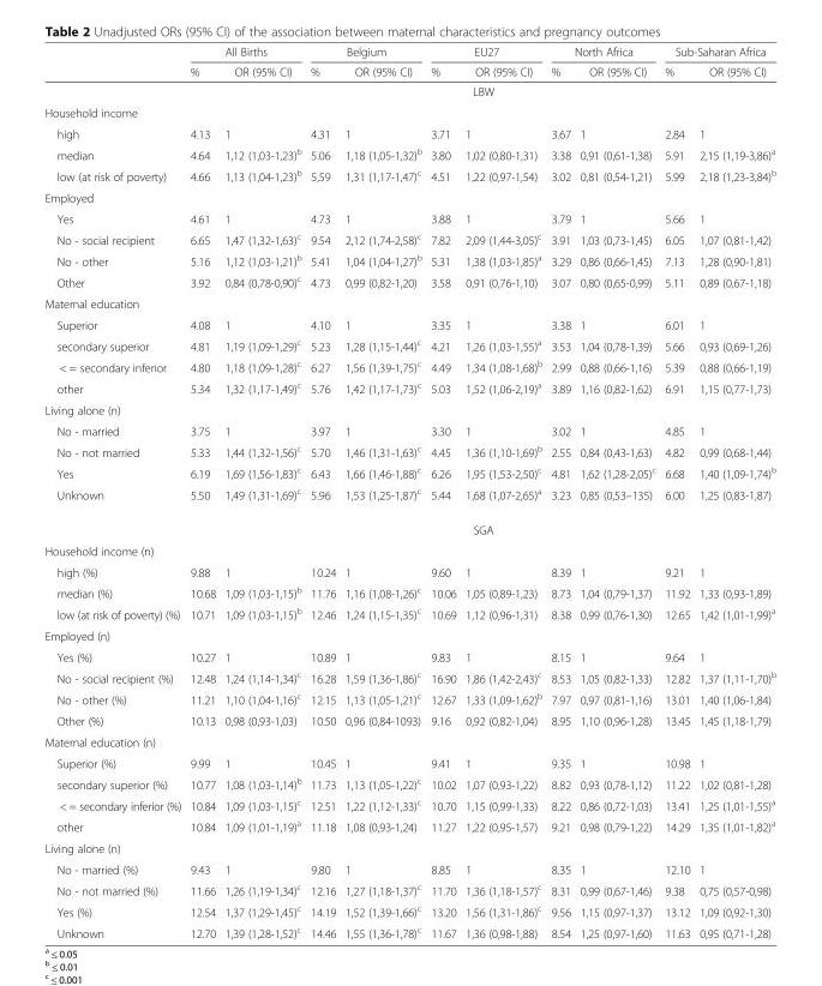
<table><thead><tr><td rowspan="2"></td><td colspan="2">All Births</td><td colspan="2">Belgium</td><td colspan="2">EU27</td><td colspan="2">North Africa</td><td colspan="2">Sub-Saharan Africa</td></tr><tr><td>%</td><td>OR (95% CI)</td><td>%</td><td>OR (95% CI)</td><td>%</td><td>OR (95% CI)</td><td>%</td><td>OR (95% CI)</td><td>%</td><td>OR (95% CI)</td></tr></thead><tbody><tr><td></td><td colspan="10">LBW</td></tr><tr><td colspan="11">Household income</td></tr><tr><td>high</td><td>4.13</td><td>1</td><td>4.31</td><td>1</td><td>3.71</td><td>1</td><td>3.67</td><td>1</td><td>2.84</td><td>1</td></tr><tr><td>median</td><td>4.64</td><td>1,12 (1,03-1,23)<sup>b</sup></td><td>5.06</td><td>1,18 (1,05-1,32)<sup>b</sup></td><td>3.80</td><td>1,02 (0,80-1,31)</td><td>3.38</td><td>0,91 (0,61-1,38)</td><td>5.91</td><td>2,15 (1,19-3,86)<sup>a</sup></td></tr><tr><td>low (at risk of poverty)</td><td>4.66</td><td>1,13 (1,04-1,23)<sup>b</sup></td><td>5,59</td><td>1,31 (1,17-1,47)<sup>c</sup></td><td>4.51</td><td>1,22 (0,97-1,54)</td><td>3.02</td><td>0,81 (0,54-1,21)</td><td>5.99</td><td>2,18 (1,23-3,84)<sup>b</sup></td></tr><tr><td colspan="11">Employed</td></tr><tr><td>Yes</td><td>4.61</td><td>1</td><td>4.73</td><td>1</td><td>3.88</td><td>1</td><td>3.79</td><td>1</td><td>5.66</td><td>1</td></tr><tr><td>No - social recipient</td><td>6.65</td><td>1,47 (1,32-1,63)<sup>c</sup></td><td>9.54</td><td>2,12 (1,74-2,58)<sup>c</sup></td><td>7.82</td><td>2,09 (1,44-3,05)<sup>c</sup></td><td>3.91</td><td>1,03 (0,73-1,45)</td><td>6.05</td><td>1,07 (0,81-1,42)</td></tr><tr><td>No - other</td><td>5.16</td><td>1,12 (1,03-1,21)<sup>b</sup></td><td>5.41</td><td>1,04 (1,04-1,27)<sup>b</sup></td><td>5.31</td><td>1,38 (1,03-1,85)<sup>a</sup></td><td>3.29</td><td>0,86 (0,66-1,45)</td><td>7.13</td><td>1,28 (0,90-1,81)</td></tr><tr><td>Other</td><td>3.92</td><td>0,84 (0,78-0,90)<sup>c</sup></td><td>4.73</td><td>0,99 (0,82-1,20)</td><td>3.58</td><td>0,91 (0,76-1,10)</td><td>3.07</td><td>0,80 (0,65-0,99)</td><td>5.11</td><td>0,89 (0,67-1,18)</td></tr><tr><td colspan="11">Maternal education</td></tr><tr><td>Superior</td><td>4.08</td><td>1</td><td>4.10</td><td>1</td><td>3.35</td><td>1</td><td>3.38</td><td>1</td><td>6.01</td><td>1</td></tr><tr><td>secondary superior</td><td>4.81</td><td>1,19 (1,09-1,29)<sup>c</sup></td><td>5.23</td><td>1,28 (1,15-1,44)<sup>c</sup></td><td>4.21</td><td>1,26 (1,03-1,55)<sup>a</sup></td><td>3.53</td><td>1,04 (0,78-1,39)</td><td>5.66</td><td>0,93 (0,69-1,26)</td></tr><tr><td>&lt; = secondary inferior</td><td>4.80</td><td>1,18 (1,09-1,28)<sup>c</sup></td><td>6.27</td><td>1,56 (1,39-1,75)<sup>c</sup></td><td>4.49</td><td>1,34 (1,08-1,68)<sup>b</sup></td><td>2.99</td><td>0,88 (0,66-1,16)</td><td>5.39</td><td>0,88 (0,66-1,19)</td></tr><tr><td>other</td><td>5.34</td><td>1,32 (1,17-1,49)<sup>c</sup></td><td>5.76</td><td>1,42 (1,17-1,73)<sup>c</sup></td><td>5.03</td><td>1,52 (1,06-2,19)<sup>a</sup></td><td>3.89</td><td>1,16 (0,82-1,62)</td><td>6.91</td><td>1,15 (0,77-1,73)</td></tr><tr><td colspan="11">Living alone (n)</td></tr><tr><td>No - married</td><td>3.75</td><td>1</td><td>3.97</td><td>1</td><td>3.30</td><td>1</td><td>3.02</td><td>1</td><td>4.85</td><td>1</td></tr><tr><td>No - not married</td><td>5.33</td><td>1,44 (1,32-1,56)<sup>c</sup></td><td>5.70</td><td>1,46 (1,31-1,63)<sup>c</sup></td><td>4.45</td><td>1,36 (1,10-1,69)<sup>b</sup></td><td>2.55</td><td>0,84 (0,43-1,63)</td><td>4.82</td><td>0,99 (0,68-1,44)</td></tr><tr><td>Yes</td><td>6.19</td><td>1,69 (1,56-1,83)<sup>c</sup></td><td>6.43</td><td>1,66 (1,46-1,88)<sup>c</sup></td><td>6.26</td><td>1,95 (1,53-2,50)<sup>c</sup></td><td>4.81</td><td>1,62 (1,28-2,05)<sup>c</sup></td><td>6.68</td><td>1,40 (1,09-1,74)<sup>b</sup></td></tr><tr><td rowspan="2">Unknown</td><td>5.50</td><td>1,49 (1,31-1,69)<sup>c</sup></td><td>5.96</td><td>1,53 (1,25-1,87)<sup>c</sup></td><td>5.44</td><td>1,68 (1,07-2,65)<sup>a</sup></td><td>3.23</td><td>0,85 (0,53–135)</td><td>6.00</td><td>1,25 (0,83-1,87)</td></tr><tr><td colspan="10">SGA</td></tr><tr><td colspan="11">Household income (n)</td></tr><tr><td>high (%)</td><td>9.88</td><td>1</td><td>10.24</td><td>1</td><td>9.60</td><td>1</td><td>8.39</td><td>1</td><td>9.21</td><td>1</td></tr><tr><td>median (%)</td><td>10.68</td><td>1,09 (1,03-1,15)<sup>b</sup></td><td>11.76</td><td>1,16 (1,08-1,26)<sup>c</sup></td><td>10.06</td><td>1,05 (0,89-1,23)</td><td>8.73</td><td>1,04 (0,79-1,37)</td><td>11.92</td><td>1,33 (0,93-1,89)</td></tr><tr><td>low (at risk of poverty) (%)</td><td>10.71</td><td>1,09 (1,03-1,15)<sup>b</sup></td><td>12.46</td><td>1,24 (1,15-1,35)<sup>c</sup></td><td>10.69</td><td>1,12 (0,96-1,31)</td><td>8.38</td><td>0,99 (0,76-1,30)</td><td>12.65</td><td>1,42 (1,01-1,99)<sup>a</sup></td></tr><tr><td colspan="11">Employed (n)</td></tr><tr><td>Yes (%)</td><td>10.27</td><td>1</td><td>10.89</td><td>1</td><td>9.83</td><td>1</td><td>8.15</td><td>1</td><td>9.64</td><td>1</td></tr><tr><td>No - social recipient (%)</td><td>12.48</td><td>1,24 (1,14-1,34)<sup>c</sup></td><td>16.28</td><td>1,59 (1,36-1,86)<sup>c</sup></td><td>16.90</td><td>1,86 (1,42-2,43)<sup>c</sup></td><td>8.53</td><td>1,05 (0,82-1,33)</td><td>12.82</td><td>1,37 (1,11-1,70)<sup>b</sup></td></tr><tr><td>No - other (%)</td><td>11.21</td><td>1,10 (1,04-1,16)<sup>c</sup></td><td>12.15</td><td>1,13 (1,05-1,21)<sup>c</sup></td><td>12.67</td><td>1,33 (1,09-1,62)<sup>b</sup></td><td>7.97</td><td>0,97 (0,81-1,16)</td><td>13.01</td><td>1,40 (1,06-1,84)</td></tr><tr><td>Other (%)</td><td>10.13</td><td>0,98 (0,93-1,03)</td><td>10.50</td><td>0,96 (0,84-1093)</td><td>9.16</td><td>0,92 (0,82-1,04)</td><td>8.95</td><td>1,10 (0,96-1,28)</td><td>13.45</td><td>1,45 (1,18-1,79)</td></tr><tr><td colspan="11">Maternal education (n)</td></tr><tr><td>Superior (%)</td><td>9.99</td><td>1</td><td>10.45</td><td>1</td><td>9.41</td><td>1</td><td>9.35</td><td>1</td><td>10.98</td><td>1</td></tr><tr><td>secondary superior (%)</td><td>10.77</td><td>1,08 (1,03-1,14)<sup>b</sup></td><td>11.73</td><td>1,13 (1,05-1,22)<sup>c</sup></td><td>10.02</td><td>1,07 (0,93-1,22)</td><td>8.82</td><td>0,93 (0,78-1,12)</td><td>11.22</td><td>1,02 (0,81-1,28)</td></tr><tr><td>&lt; = secondary inferior (%)</td><td>10.84</td><td>1,09 (1,03-1,15)<sup>c</sup></td><td>12.51</td><td>1,22 (1,12-1,33)<sup>c</sup></td><td>10.70</td><td>1,15 (0,99-1,33)</td><td>8.22</td><td>0,86 (0,72-1,03)</td><td>13.41</td><td>1,25 (1,01-1,55)<sup>a</sup></td></tr><tr><td>other</td><td>10.84</td><td>1,09 (1,01-1,19)<sup>a</sup></td><td>11.18</td><td>1,08 (0,93-1,24)</td><td>11.27</td><td>1,22 (0,95-1,57)</td><td>9.21</td><td>0,98 (0,79-1,22)</td><td>14.29</td><td>1,35 (1,01-1,82)<sup>a</sup></td></tr><tr><td colspan="11">Living alone (n)</td></tr><tr><td>No - married (%)</td><td>9.43</td><td>1</td><td>9.80</td><td>1</td><td>8.85</td><td>1</td><td>8.35</td><td>1</td><td>12.10</td><td>1</td></tr><tr><td>No - not married (%)</td><td>11.66</td><td>1,26 (1,19-1,34)<sup>c</sup></td><td>12.16</td><td>1,27 (1,18-1,37)<sup>c</sup></td><td>11.70</td><td>1,36 (1,18-1,57)<sup>c</sup></td><td>8.31</td><td>0,99 (0,67-1,46)</td><td>9.38</td><td>0,75 (0,57-0,98)</td></tr><tr><td>Yes (%)</td><td>12.54</td><td>1,37 (1,29-1,45)<sup>c</sup></td><td>14.19</td><td>1,52 (1,39-1,66)<sup>c</sup></td><td>13.20</td><td>1,56 (1,31-1,86)<sup>c</sup></td><td>9.56</td><td>1,15 (0,97-1,37)</td><td>13.12</td><td>1,09 (0,92-1,30)</td></tr><tr><td>Unknown</td><td>12.70</td><td>1,39 (1,28-1,52)<sup>c</sup></td><td>14.46</td><td>1,55 (1,36-1,78)<sup>c</sup></td><td>11.67</td><td>1,36 (0,98-1,88)</td><td>8.54</td><td>1,25 (0,97-1,60)</td><td>11.63</td><td>0,95 (0,71-1,28)</td></tr></tbody></table>